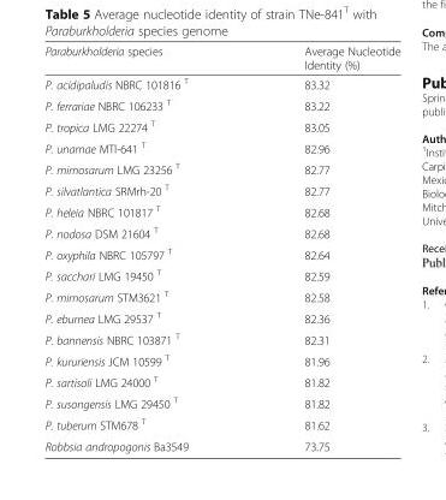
<table><thead><tr><td>Paraburkholderia species</td><td>Average Nucleotide Identity (%)</td></tr></thead><tbody><tr><td>P. acidipaludis NBRC 101816 <sup>T</sup></td><td>83.32</td></tr><tr><td>P. ferrariae NBRC 106233 <sup>T</sup></td><td>83.22</td></tr><tr><td>P. tropica LMG 22274 <sup>T</sup></td><td>83.05</td></tr><tr><td>P. unamae MTl-641 <sup>T</sup></td><td>82.96</td></tr><tr><td>P. mimosarum LMG 23256 <sup>T</sup></td><td>82.77</td></tr><tr><td>P. silvatlantica SRMrh-20 <sup>T</sup></td><td>82.77</td></tr><tr><td>P. heleia NBRC 101817 <sup>T</sup></td><td>82.68</td></tr><tr><td>P. nodosa DSM 21604 <sup>T</sup></td><td>82.68</td></tr><tr><td>P. oxyphila NBRC 105797 <sup>T</sup></td><td>82.64</td></tr><tr><td>P. sacchari LMG 19450 <sup>T</sup></td><td>82.59</td></tr><tr><td>P. mimosarum STM3621 <sup>T</sup></td><td>82.58</td></tr><tr><td>P. eburnea LMG 29537 <sup>T</sup></td><td>82.36</td></tr><tr><td>P. bannensis NBRC 103871 <sup>T</sup></td><td>82.31</td></tr><tr><td>P. kururiensis JCM 10599 <sup>T</sup></td><td>81.96</td></tr><tr><td>P. sartisoli LMG 24000 <sup>T</sup></td><td>81.82</td></tr><tr><td>P. susongensis LMG 29450 <sup>T</sup></td><td>81.82</td></tr><tr><td>P. tuberum STM678 <sup>T</sup></td><td>81.62</td></tr><tr><td>Robbsia andropogonis Ba3549</td><td>73.75</td></tr></tbody></table>